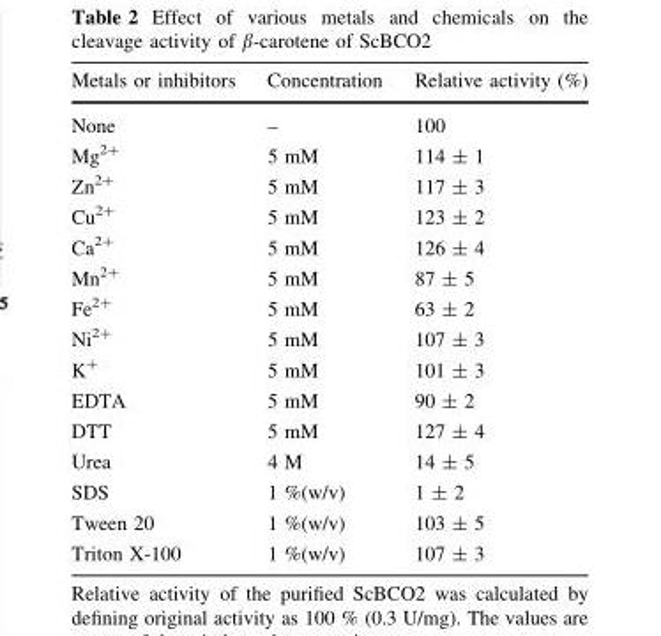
<table><thead><tr><td>Metals or inhibitors</td><td>Concentration</td><td>Relative activity (%)</td></tr></thead><tbody><tr><td>None</td><td>–</td><td>100</td></tr><tr><td>Mg<sup>2+</sup></td><td>5 mM</td><td>114 ± 1</td></tr><tr><td>Zn<sup>2+</sup></td><td>5 mM</td><td>117 ± 3</td></tr><tr><td>Cu<sup>2+</sup></td><td>5 mM</td><td>123 ± 2</td></tr><tr><td>Ca<sup>2+</sup></td><td>5 mM</td><td>126 ± 4</td></tr><tr><td>Mn<sup>2+</sup></td><td>5 mM</td><td>87 ± 5</td></tr><tr><td>Fe<sup>2+</sup></td><td>5 mM</td><td>63 ± 2</td></tr><tr><td>Ni<sup>2+</sup></td><td>5 mM</td><td>107 ± 3</td></tr><tr><td>K<sup>+</sup></td><td>5 mM</td><td>101 ± 3</td></tr><tr><td>EDTA</td><td>5 mM</td><td>90 ± 2</td></tr><tr><td>DTT</td><td>5 mM</td><td>127 ± 4</td></tr><tr><td>Urea</td><td>4 M</td><td>14 ± 5</td></tr><tr><td>SDS</td><td>1 %(w/v)</td><td>1 ± 2</td></tr><tr><td>Tween 20</td><td>1 %(w/v)</td><td>103 ± 5</td></tr><tr><td>Triton X-100</td><td>1 %(w/v)</td><td>107 ± 3</td></tr></tbody></table>